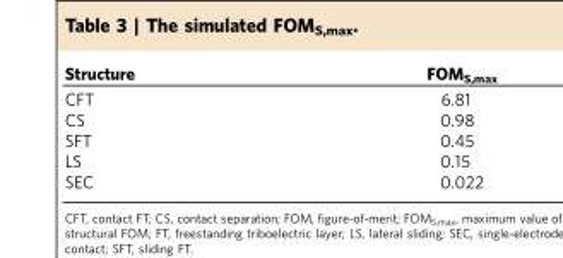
<table><thead><tr><td>Structure</td><td>FOM<sub>S,max</sub></td></tr></thead><tbody><tr><td>CFT</td><td>6.81</td></tr><tr><td>CS</td><td>0.98</td></tr><tr><td>SFT</td><td>0.45</td></tr><tr><td>LS</td><td>0.15</td></tr><tr><td>SEC</td><td>0.022</td></tr></tbody></table>